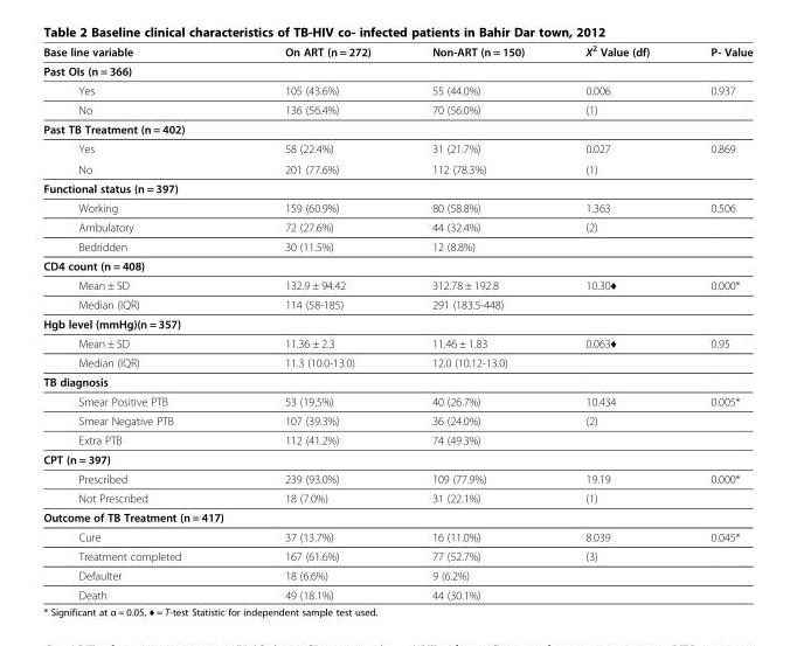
<table><thead><tr><td>Base line variable</td><td>On ART (n = 272)</td><td>Non-ART (n = 150)</td><td>X<sup>2</sup> Value (df)</td><td>P- Value</td></tr></thead><tbody><tr><td colspan="5">Past OIs (n = 366)</td></tr><tr><td>Yes</td><td>105 (43.6%)</td><td>55 (44.0%)</td><td>0.006</td><td>0.937</td></tr><tr><td>No</td><td>136 (56.4%)</td><td>70 (56.0%)</td><td>(1)</td><td></td></tr><tr><td colspan="5">Past TB Treatment (n = 402)</td></tr><tr><td>Yes</td><td>58 (22.4%)</td><td>31 (21.7%)</td><td>0.027</td><td>0.869</td></tr><tr><td>No</td><td>201 (77.6%)</td><td>112 (78.3%)</td><td>(1)</td><td></td></tr><tr><td colspan="5">Functional status (n = 397)</td></tr><tr><td>Working</td><td>159 (60.9%)</td><td>80 (58.8%)</td><td>1.363</td><td>0.506</td></tr><tr><td>Ambulatory</td><td>72 (27.6%)</td><td>44 (32.4%)</td><td>(2)</td><td></td></tr><tr><td>Bedridden</td><td>30 (11.5%)</td><td>12 (8.8%)</td><td></td><td></td></tr><tr><td colspan="5">CD4 count (n = 408)</td></tr><tr><td>Mean ± SD</td><td>132.9 ± 94.42</td><td>312.78 ± 192.8</td><td>10.30♦</td><td>0.000*</td></tr><tr><td>Median (IQR)</td><td>114 (58-185)</td><td>291 (183.5-448)</td><td></td><td></td></tr><tr><td colspan="5">Hgb level (mmHg)(n = 357)</td></tr><tr><td>Mean ± SD</td><td>11.36 ± 2.3</td><td>11.46 ± 1.83</td><td>0.063♦</td><td>0.95</td></tr><tr><td>Median (IQR)</td><td>11.3 (10.0-13.0)</td><td>12.0 (10.12-13.0)</td><td></td><td></td></tr><tr><td colspan="5">TB diagnosis</td></tr><tr><td>Smear Positive PTB</td><td>53 (19.5%)</td><td>40 (26.7%)</td><td>10.434</td><td>0.005*</td></tr><tr><td>Smear Negative PTB</td><td>107 (39.3%)</td><td>36 (24.0%)</td><td>(2)</td><td></td></tr><tr><td>Extra PTB</td><td>112 (41.2%)</td><td>74 (49.3%)</td><td></td><td></td></tr><tr><td colspan="5">CPT (n = 397)</td></tr><tr><td>Prescribed</td><td>239 (93.0%)</td><td>109 (77.9%)</td><td>19.19</td><td>0.000*</td></tr><tr><td>Not Prescribed</td><td>18 (7.0%)</td><td>31 (22.1%)</td><td>(1)</td><td></td></tr><tr><td colspan="5">Outcome of TB Treatment (n = 417)</td></tr><tr><td>Cure</td><td>37 (13.7%)</td><td>16 (11.0%)</td><td>8.039</td><td>0.045*</td></tr><tr><td>Treatment completed</td><td>167 (61.6%)</td><td>77 (52.7%)</td><td>(3)</td><td></td></tr><tr><td>Defaulter</td><td>18 (6.6%)</td><td>9 (6.2%)</td><td></td><td></td></tr><tr><td>Death</td><td>49 (18.1%)</td><td>44 (30.1%)</td><td></td><td></td></tr></tbody></table>